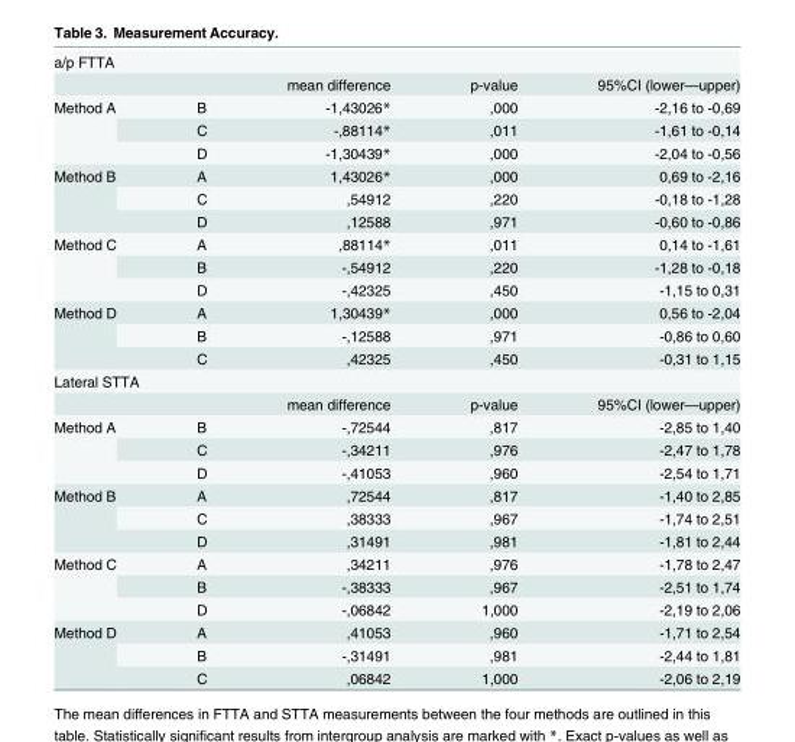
<table><tbody><tr><td colspan="5">a/p FTTA</td></tr><tr><td></td><td></td><td>mean difference</td><td>p-value</td><td>95%CI (lower—upper)</td></tr><tr><td rowspan="3">Method A</td><td>B</td><td>-1,43026*</td><td>,000</td><td>-2,16 to -0,69</td></tr><tr><td>C</td><td>-,88114*</td><td>,011</td><td>-1,61 to -0,14</td></tr><tr><td>D</td><td>-1,30439*</td><td>,000</td><td>-2,04 to -0,56</td></tr><tr><td rowspan="3">Method B</td><td>A</td><td>1,43026*</td><td>,000</td><td>0,69 to -2,16</td></tr><tr><td>C</td><td>,54912</td><td>,220</td><td>-0,18 to -1,28</td></tr><tr><td>D</td><td>,12588</td><td>,971</td><td>-0,60 to -0,86</td></tr><tr><td rowspan="3">Method C</td><td>A</td><td>,88114*</td><td>,011</td><td>0,14 to -1,61</td></tr><tr><td>B</td><td>-,54912</td><td>,220</td><td>-1,28 to -0,18</td></tr><tr><td>D</td><td>-,42325</td><td>,450</td><td>-1,15 to 0,31</td></tr><tr><td rowspan="3">Method D</td><td>A</td><td>1,30439*</td><td>,000</td><td>0,56 to -2,04</td></tr><tr><td>B</td><td>-,12588</td><td>,971</td><td>-0,86 to 0,60</td></tr><tr><td>C</td><td>,42325</td><td>,450</td><td>-0,31 to 1,15</td></tr><tr><td colspan="5">Lateral STTA</td></tr><tr><td></td><td></td><td>mean difference</td><td>p-value</td><td>95%CI (lower—upper)</td></tr><tr><td rowspan="3">Method A</td><td>B</td><td>-,72544</td><td>,817</td><td>-2,85 to 1,40</td></tr><tr><td>C</td><td>-,34211</td><td>,976</td><td>-2,47 to 1,78</td></tr><tr><td>D</td><td>-,41053</td><td>,960</td><td>-2,54 to 1,71</td></tr><tr><td rowspan="3">Method B</td><td>A</td><td>,72544</td><td>,817</td><td>-1,40 to 2,85</td></tr><tr><td>C</td><td>,38333</td><td>,967</td><td>-1,74 to 2,51</td></tr><tr><td>D</td><td>,31491</td><td>,981</td><td>-1,81 to 2,44</td></tr><tr><td rowspan="3">Method C</td><td>A</td><td>,34211</td><td>,976</td><td>-1,78 to 2,47</td></tr><tr><td>B</td><td>-,38333</td><td>,967</td><td>-2,51 to 1,74</td></tr><tr><td>D</td><td>-,06842</td><td>1,000</td><td>-2,19 to 2,06</td></tr><tr><td rowspan="3">Method D</td><td>A</td><td>,41053</td><td>,960</td><td>-1,71 to 2,54</td></tr><tr><td>B</td><td>-,31491</td><td>,981</td><td>-2,44 to 1,81</td></tr><tr><td>C</td><td>,06842</td><td>1,000</td><td>-2,06 to 2,19</td></tr></tbody></table>